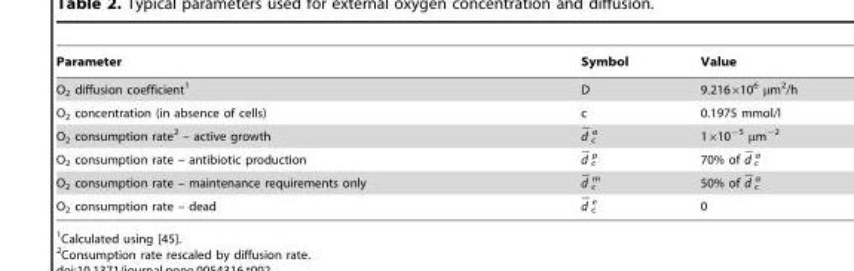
<table><thead><tr><td>Parameter</td><td>Symbol</td><td>Value</td></tr></thead><tbody><tr><td>O<sub>2</sub> diffusion coefficient<sup>1</sup></td><td>D</td><td>9.216×10<sup>6</sup> μm<sup>2</sup>/h</td></tr><tr><td>O<sub>2</sub> concentration (in absence of cells)</td><td>c</td><td>0.1975 mmol/l</td></tr><tr><td>O<sub>2</sub> consumption rate<sup>2</sup> – active growth</td><td>d− <sub>c</sub> <sup>a</sup></td><td>1×10<sup>−5</sup> μm<sup>−2</sup></td></tr><tr><td>O<sub>2</sub> consumption rate – antibiotic production</td><td>d− <sub>c</sub> <sup>p</sup></td><td>70% of d− <sub>c</sub> <sup>a</sup></td></tr><tr><td>O<sub>2</sub> consumption rate – maintenance requirements only</td><td>d− <sub>c</sub> <sup>m</sup></td><td>50% of d− <sub>c</sub> <sup>a</sup></td></tr><tr><td>O<sub>2</sub> consumption rate – dead</td><td>d− <sub>c</sub> <sup>e</sup></td><td>0</td></tr></tbody></table>